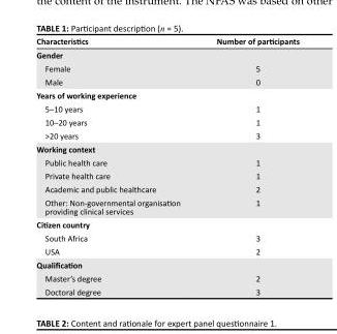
<table><thead><tr><td>Characteristics</td><td>Number of participants</td></tr></thead><tbody><tr><td colspan="2">Gender</td></tr><tr><td>Female</td><td>5</td></tr><tr><td>Male</td><td>0</td></tr><tr><td colspan="2">Years of working experience</td></tr><tr><td>5–10 years</td><td>1</td></tr><tr><td>10–20 years</td><td>1</td></tr><tr><td>&gt;20 years</td><td>3</td></tr><tr><td colspan="2">Working context</td></tr><tr><td>Public health care</td><td>1</td></tr><tr><td>Private health care</td><td>1</td></tr><tr><td>Academic and public healthcare</td><td>2</td></tr><tr><td>Other: Non‐governmental organisation providing clinical services</td><td>1</td></tr><tr><td colspan="2">Citizen country</td></tr><tr><td>South Africa</td><td>3</td></tr><tr><td>USA</td><td>2</td></tr><tr><td colspan="2">Qualification</td></tr><tr><td>Master’s degree</td><td>2</td></tr><tr><td>Doctoral degree</td><td>3</td></tr></tbody></table>